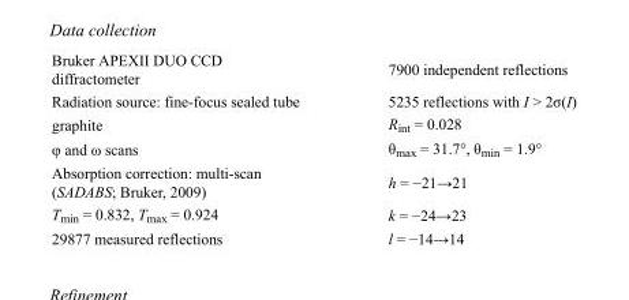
<table><tbody><tr><td>Bruker APEXII DUO CCD diffractometer</td><td>7900 independent reflections</td></tr><tr><td>Radiation source: fine-focus sealed tube</td><td>5235 reflections with I &gt; 2σ(I)</td></tr><tr><td>graphite</td><td>R<sub>int</sub> = 0.028</td></tr><tr><td>φ and ω scans</td><td>θ<sub>max</sub> = 31.7°, θ<sub>min</sub> = 1.9°</td></tr><tr><td>Absorption correction: multi-scan (SADABS; Bruker, 2009)</td><td>h = −21→21</td></tr><tr><td>T<sub>min</sub> = 0.832, T<sub>max</sub> = 0.924</td><td>k = −24→23</td></tr><tr><td>29877 measured reflections</td><td>l = −14→14</td></tr></tbody></table>